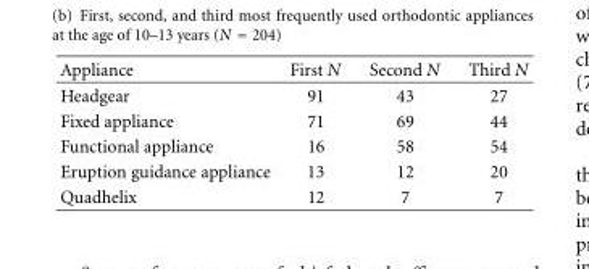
<table><thead><tr><td>Appliance</td><td>First N</td><td>Second N</td><td>Third N</td></tr></thead><tbody><tr><td>Headgear</td><td>91</td><td>43</td><td>27</td></tr><tr><td>Fixed appliance</td><td>71</td><td>69</td><td>44</td></tr><tr><td>Functional appliance</td><td>16</td><td>58</td><td>54</td></tr><tr><td>Eruption guidance appliance</td><td>13</td><td>12</td><td>20</td></tr><tr><td>Quadhelix</td><td>12</td><td>7</td><td>7</td></tr></tbody></table>